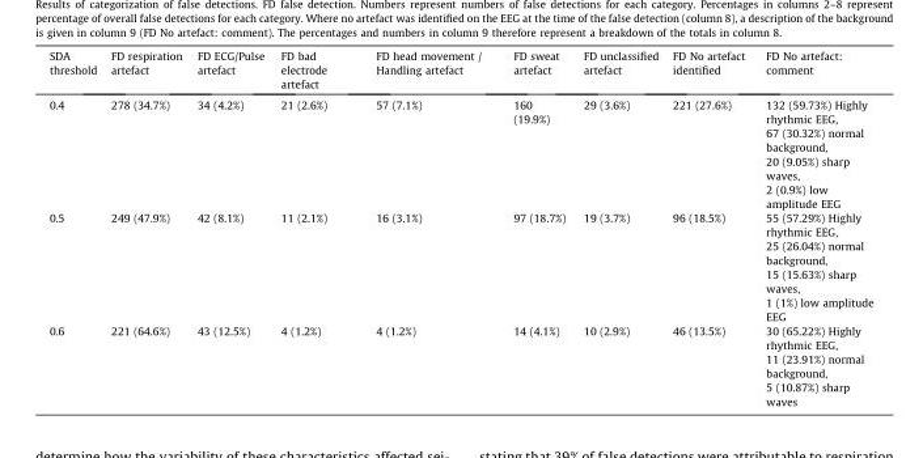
<table><thead><tr><td>SDA threshold</td><td>FD respiration artefact</td><td>FD ECG/Pulse artefact</td><td>FD bad electrode artefact</td><td>FD head movement / Handling artefact</td><td>FD sweat artefact</td><td>FD unclassified artefact</td><td>FD No artefact identified</td><td>FD No artefact: comment</td></tr></thead><tbody><tr><td>0.4</td><td>278 (34.7%)</td><td>34 (4.2%)</td><td>21 (2.6%)</td><td>57 (7.1%)</td><td>160 (19.9%)</td><td>29 (3.6%)</td><td>221 (27.6%)</td><td>132 (59.73%) Highly rhythmic EEG, 67 (30.32%) normal background, 20 (9.05%) sharp waves, 2 (0.9%) low amplitude EEG</td></tr><tr><td>0.5</td><td>249 (47.9%)</td><td>42 (8.1%)</td><td>11 (2.1%)</td><td>16 (3.1%)</td><td>97 (18.7%)</td><td>19 (3.7%)</td><td>96 (18.5%)</td><td>55 (57.29%) Highly rhythmic EEG, 25 (26.04%) normal background, 15 (15.63%) sharp waves, 1 (1%) low amplitude EEG</td></tr><tr><td>0.6</td><td>221 (64.6%)</td><td>43 (12.5%)</td><td>4 (1.2%)</td><td>4 (1.2%)</td><td>14 (4.1%)</td><td>10 (2.9%)</td><td>46 (13.5%)</td><td>30 (65.22%) Highly rhythmic EEG, 11 (23.91%) normal background, 5 (10.87%) sharp waves</td></tr></tbody></table>